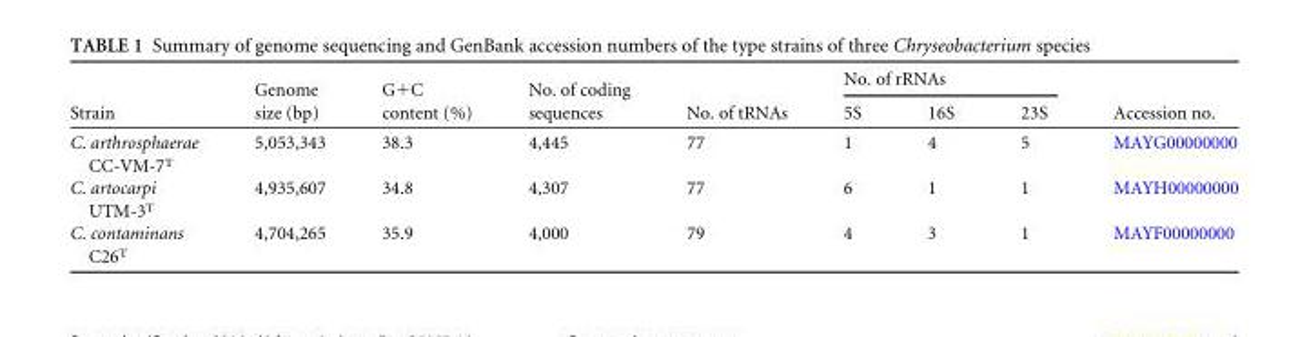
<table><thead><tr><td rowspan="2">Strain</td><td rowspan="2">Genome size (bp)</td><td rowspan="2">G+C content (%)</td><td rowspan="2">No. of coding sequences</td><td rowspan="2">No. of tRNAs</td><td colspan="3">No. of rRNAs</td><td rowspan="2">Accession no.</td></tr><tr><td>5S</td><td>16S</td><td>23S</td></tr></thead><tbody><tr><td>C. arthrosphaerae CC-VM-7<sup>T</sup></td><td>5,053,343</td><td>38.3</td><td>4,445</td><td>77</td><td>1</td><td>4</td><td>5</td><td>MAYG00000000</td></tr><tr><td>C. artocarpi UTM-3<sup>T</sup></td><td>4,935,607</td><td>34.8</td><td>4,307</td><td>77</td><td>6</td><td>1</td><td>1</td><td>MAYH00000000</td></tr><tr><td>C. contaminans C26<sup>T</sup></td><td>4,704,265</td><td>35.9</td><td>4,000</td><td>79</td><td>4</td><td>3</td><td>1</td><td>MAYF00000000</td></tr></tbody></table>